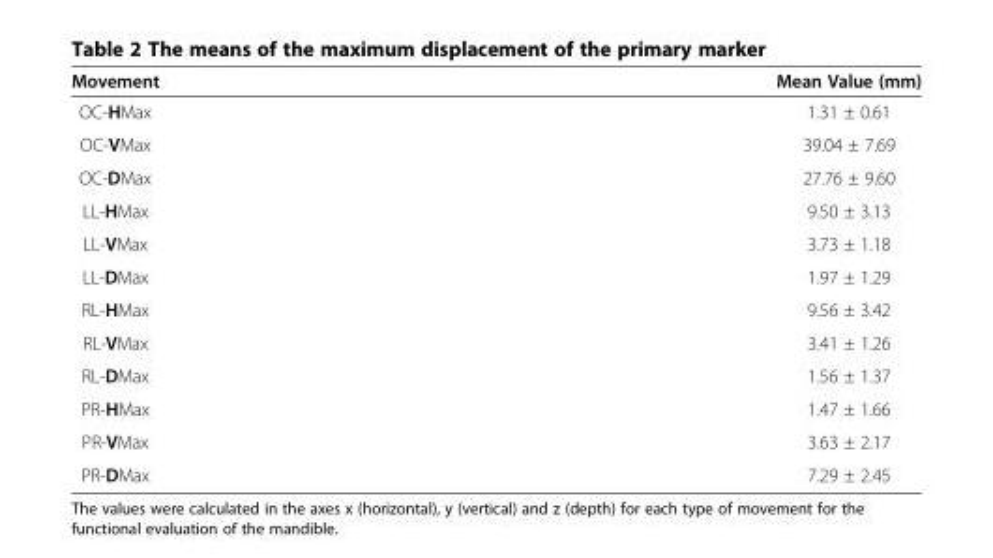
<table><thead><tr><td>Movement</td><td>Mean Value (mm)</td></tr></thead><tbody><tr><td>OC-HMax</td><td>1.31 ± 0.61</td></tr><tr><td>OC-VMax</td><td>39.04 ± 7.69</td></tr><tr><td>OC-DMax</td><td>27.76 ± 9.60</td></tr><tr><td>LL-HMax</td><td>9.50 ± 3.13</td></tr><tr><td>LL-VMax</td><td>3.73 ± 1.18</td></tr><tr><td>LL-DMax</td><td>1.97 ± 1.29</td></tr><tr><td>RL-HMax</td><td>9.56 ± 3.42</td></tr><tr><td>RL-VMax</td><td>3.41 ± 1.26</td></tr><tr><td>RL-DMax</td><td>1.56 ± 1.37</td></tr><tr><td>PR-HMax</td><td>1.47 ± 1.66</td></tr><tr><td>PR-VMax</td><td>3.63 ± 2.17</td></tr><tr><td>PR-DMax</td><td>7.29 ± 2.45</td></tr></tbody></table>